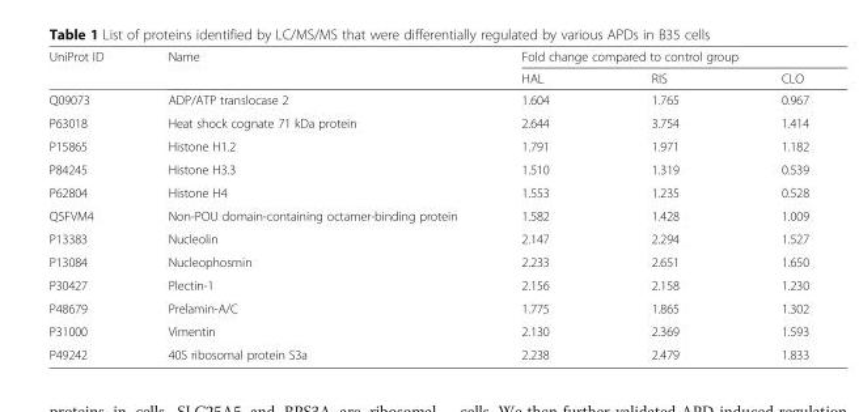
<table><thead><tr><td rowspan="2">UniProt ID</td><td rowspan="2">Name</td><td colspan="3">Fold change compared to control group</td></tr><tr><td>HAL</td><td>RIS</td><td>CLO</td></tr></thead><tbody><tr><td>Q09073</td><td>ADP/ATP translocase 2</td><td>1.604</td><td>1.765</td><td>0.967</td></tr><tr><td>P63018</td><td>Heat shock cognate 71 kDa protein</td><td>2.644</td><td>3.754</td><td>1.414</td></tr><tr><td>P15865</td><td>Histone H1.2</td><td>1.791</td><td>1.971</td><td>1.182</td></tr><tr><td>P84245</td><td>Histone H3.3</td><td>1.510</td><td>1.319</td><td>0.539</td></tr><tr><td>P62804</td><td>Histone H4</td><td>1.553</td><td>1.235</td><td>0.528</td></tr><tr><td>Q5FVM4</td><td>Non-POU domain-containing octamer-binding protein</td><td>1.582</td><td>1.428</td><td>1.009</td></tr><tr><td>P13383</td><td>Nucleolin</td><td>2.147</td><td>2.294</td><td>1.527</td></tr><tr><td>P13084</td><td>Nucleophosmin</td><td>2.233</td><td>2.651</td><td>1.650</td></tr><tr><td>P30427</td><td>Plectin-1</td><td>2.156</td><td>2.158</td><td>1.230</td></tr><tr><td>P48679</td><td>Prelamin-A/C</td><td>1.775</td><td>1.865</td><td>1.302</td></tr><tr><td>P31000</td><td>Vimentin</td><td>2.130</td><td>2.369</td><td>1.593</td></tr><tr><td>P49242</td><td>40S ribosomal protein S3a</td><td>2.238</td><td>2.479</td><td>1.833</td></tr></tbody></table>